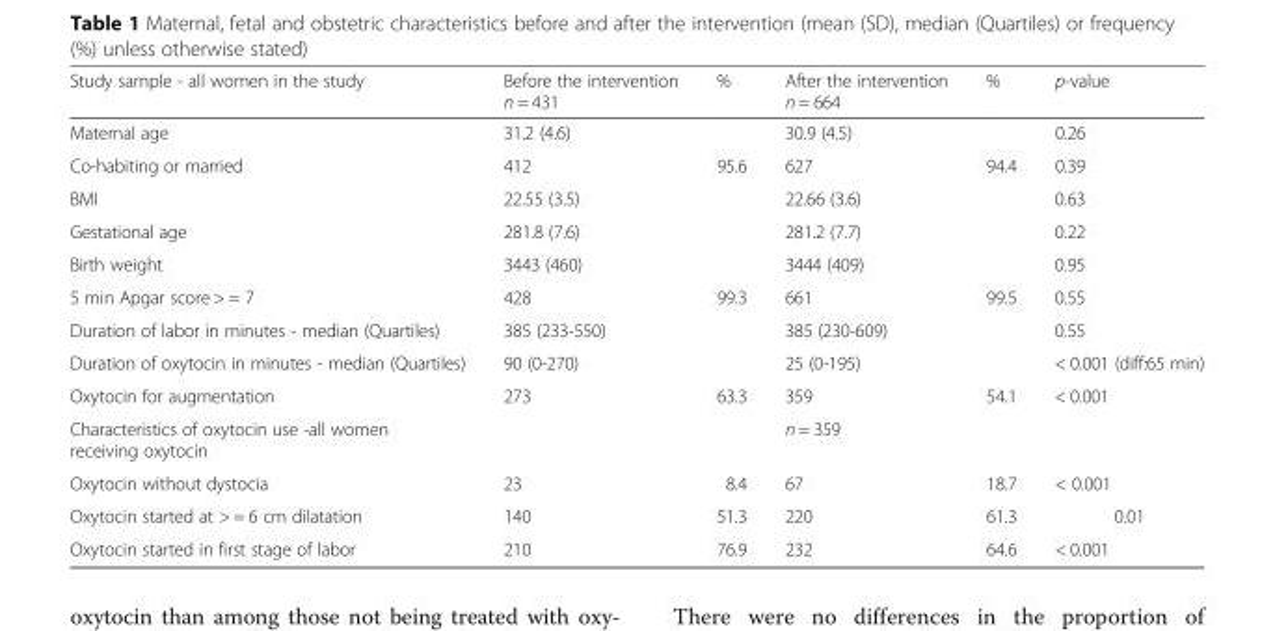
<table><thead><tr><td>Study sample - all women in the study</td><td>Before the intervention n = 431</td><td>%</td><td>After the intervention n = 664</td><td>%</td><td>p-value</td></tr></thead><tbody><tr><td>Maternal age</td><td>31.2 (4.6)</td><td></td><td>30.9 (4.5)</td><td></td><td>0.26</td></tr><tr><td>Co-habiting or married</td><td>412</td><td>95.6</td><td>627</td><td>94.4</td><td>0.39</td></tr><tr><td>BMI</td><td>22.55 (3.5)</td><td></td><td>22.66 (3.6)</td><td></td><td>0.63</td></tr><tr><td>Gestational age</td><td>281.8 (7.6)</td><td></td><td>281.2 (7.7)</td><td></td><td>0.22</td></tr><tr><td>Birth weight</td><td>3443 (460)</td><td></td><td>3444 (409)</td><td></td><td>0.95</td></tr><tr><td>5 min Apgar score &gt; = 7</td><td>428</td><td>99.3</td><td>661</td><td>99.5</td><td>0.55</td></tr><tr><td>Duration of labor in minutes - median (Quartiles)</td><td>385 (233-550)</td><td></td><td>385 (230-609)</td><td></td><td>0.55</td></tr><tr><td>Duration of oxytocin in minutes - median (Quartiles)</td><td>90 (0-270)</td><td></td><td>25 (0-195)</td><td></td><td>&lt; 0.001 (diff:65 min)</td></tr><tr><td>Oxytocin for augmentation</td><td>273</td><td>63.3</td><td>359</td><td>54.1</td><td>&lt; 0.001</td></tr><tr><td>Characteristics of oxytocin use -all women receiving oxytocin</td><td></td><td></td><td>n = 359</td><td></td><td></td></tr><tr><td>Oxytocin without dystocia</td><td>23</td><td>8.4</td><td>67</td><td>18.7</td><td>&lt; 0.001</td></tr><tr><td>Oxytocin started at &gt; = 6 cm dilatation</td><td>140</td><td>51.3</td><td>220</td><td>61.3</td><td>0.01</td></tr><tr><td>Oxytocin started in first stage of labor</td><td>210</td><td>76.9</td><td>232</td><td>64.6</td><td>&lt; 0.001</td></tr></tbody></table>